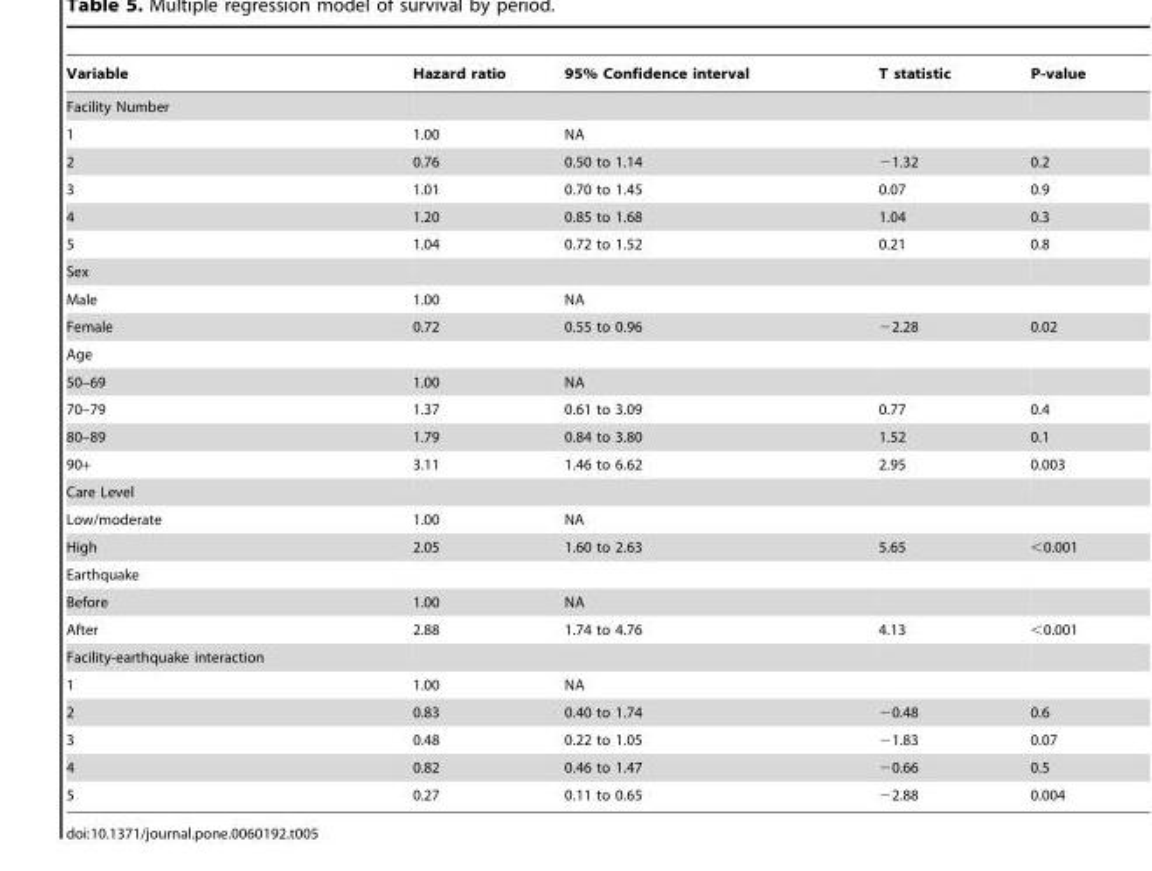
<table><thead><tr><td>Variable</td><td>Hazard ratio</td><td>95% Confidence interval</td><td>T statistic</td><td>P-value</td></tr></thead><tbody><tr><td colspan="5">Facility Number</td></tr><tr><td>1</td><td>1.00</td><td>NA</td><td></td><td></td></tr><tr><td>2</td><td>0.76</td><td>0.50 to 1.14</td><td>−1.32</td><td>0.2</td></tr><tr><td>3</td><td>1.01</td><td>0.70 to 1.45</td><td>0.07</td><td>0.9</td></tr><tr><td>4</td><td>1.20</td><td>0.85 to 1.68</td><td>1.04</td><td>0.3</td></tr><tr><td>5</td><td>1.04</td><td>0.72 to 1.52</td><td>0.21</td><td>0.8</td></tr><tr><td colspan="5">Sex</td></tr><tr><td>Male</td><td>1.00</td><td>NA</td><td></td><td></td></tr><tr><td>Female</td><td>0.72</td><td>0.55 to 0.96</td><td>−2.28</td><td>0.02</td></tr><tr><td colspan="5">Age</td></tr><tr><td>50–69</td><td>1.00</td><td>NA</td><td></td><td></td></tr><tr><td>70–79</td><td>1.37</td><td>0.61 to 3.09</td><td>0.77</td><td>0.4</td></tr><tr><td>80–89</td><td>1.79</td><td>0.84 to 3.80</td><td>1.52</td><td>0.1</td></tr><tr><td>90+</td><td>3.11</td><td>1.46 to 6.62</td><td>2.95</td><td>0.003</td></tr><tr><td colspan="5">Care Level</td></tr><tr><td>Low/moderate</td><td>1.00</td><td>NA</td><td></td><td></td></tr><tr><td>High</td><td>2.05</td><td>1.60 to 2.63</td><td>5.65</td><td>&lt;0.001</td></tr><tr><td colspan="5">Earthquake</td></tr><tr><td>Before</td><td>1.00</td><td>NA</td><td></td><td></td></tr><tr><td>After</td><td>2.88</td><td>1.74 to 4.76</td><td>4.13</td><td>&lt;0.001</td></tr><tr><td colspan="5">Facility-earthquake interaction</td></tr><tr><td>1</td><td>1.00</td><td>NA</td><td></td><td></td></tr><tr><td>2</td><td>0.83</td><td>0.40 to 1.74</td><td>−0.48</td><td>0.6</td></tr><tr><td>3</td><td>0.48</td><td>0.22 to 1.05</td><td>−1.83</td><td>0.07</td></tr><tr><td>4</td><td>0.82</td><td>0.46 to 1.47</td><td>−0.66</td><td>0.5</td></tr><tr><td>5</td><td>0.27</td><td>0.11 to 0.65</td><td>−2.88</td><td>0.004</td></tr></tbody></table>